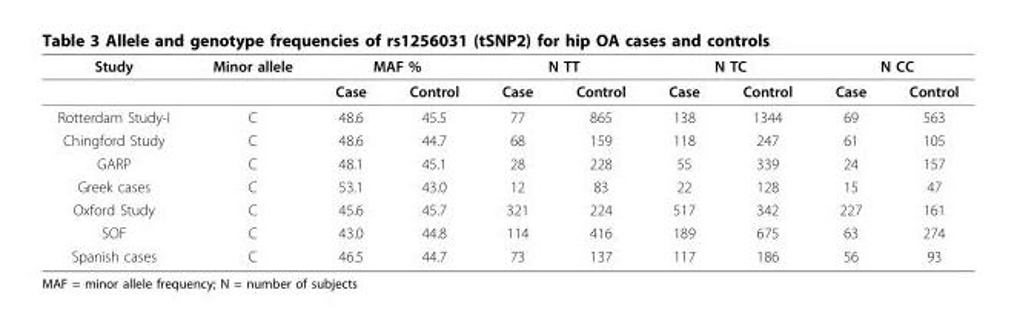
<table><thead><tr><td rowspan="2">Study</td><td rowspan="2">Minor allele</td><td colspan="2">MAF %</td><td colspan="2">N TT</td><td colspan="2">N TC</td><td colspan="2">N CC</td></tr><tr><td>Case</td><td>Control</td><td>Case</td><td>Control</td><td>Case</td><td>Control</td><td>Case</td><td>Control</td></tr></thead><tbody><tr><td>Rotterdam Study-I</td><td>C</td><td>48.6</td><td>45.5</td><td>77</td><td>865</td><td>138</td><td>1344</td><td>69</td><td>563</td></tr><tr><td>Chingford Study</td><td>C</td><td>48.6</td><td>44.7</td><td>68</td><td>159</td><td>118</td><td>247</td><td>61</td><td>105</td></tr><tr><td>GARP</td><td>C</td><td>48.1</td><td>45.1</td><td>28</td><td>228</td><td>55</td><td>339</td><td>24</td><td>157</td></tr><tr><td>Greek cases</td><td>C</td><td>53.1</td><td>43.0</td><td>12</td><td>83</td><td>22</td><td>128</td><td>15</td><td>47</td></tr><tr><td>Oxford Study</td><td>C</td><td>45.6</td><td>45.7</td><td>321</td><td>224</td><td>517</td><td>342</td><td>227</td><td>161</td></tr><tr><td>SOF</td><td>C</td><td>43.0</td><td>44.8</td><td>114</td><td>416</td><td>189</td><td>675</td><td>63</td><td>274</td></tr><tr><td>Spanish cases</td><td>C</td><td>46.5</td><td>44.7</td><td>73</td><td>137</td><td>117</td><td>186</td><td>56</td><td>93</td></tr></tbody></table>